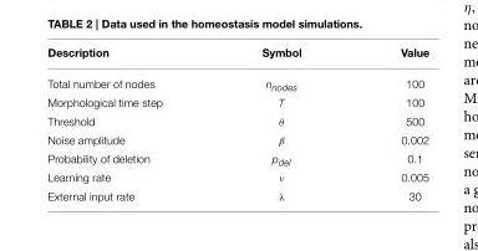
<table><thead><tr><td>Description</td><td>Symbol</td><td>Value</td></tr></thead><tbody><tr><td>Total number of nodes</td><td>n<sub>nodes</sub></td><td>100</td></tr><tr><td>Morphological time step</td><td>T</td><td>100</td></tr><tr><td>Threshold</td><td>θ</td><td>500</td></tr><tr><td>Noise amplitude</td><td>β</td><td>0.002</td></tr><tr><td>Probability of deletion</td><td>p<sub>del</sub></td><td>0.1</td></tr><tr><td>Learning rate</td><td>ν</td><td>0.005</td></tr><tr><td>External input rate</td><td>λ</td><td>30</td></tr></tbody></table>